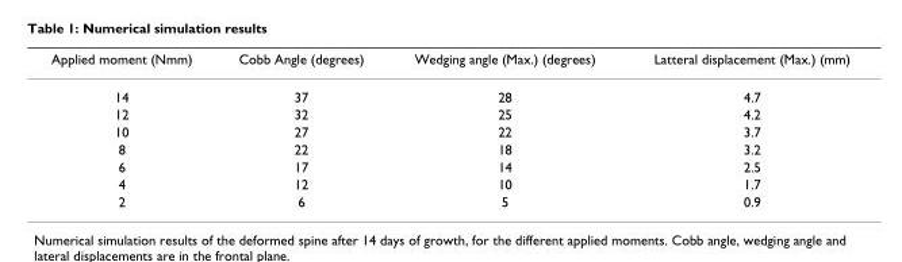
<table><thead><tr><td>Applied moment (Nmm)</td><td>Cobb Angle (degrees)</td><td>Wedging angle (Max.) (degrees)</td><td>Latteral displacement (Max.) (mm)</td></tr></thead><tbody><tr><td>14</td><td>37</td><td>28</td><td>4.7</td></tr><tr><td>12</td><td>32</td><td>25</td><td>4.2</td></tr><tr><td>10</td><td>27</td><td>22</td><td>3.7</td></tr><tr><td>8</td><td>22</td><td>18</td><td>3.2</td></tr><tr><td>6</td><td>17</td><td>14</td><td>2.5</td></tr><tr><td>4</td><td>12</td><td>10</td><td>1.7</td></tr><tr><td>2</td><td>6</td><td>5</td><td>0.9</td></tr></tbody></table>